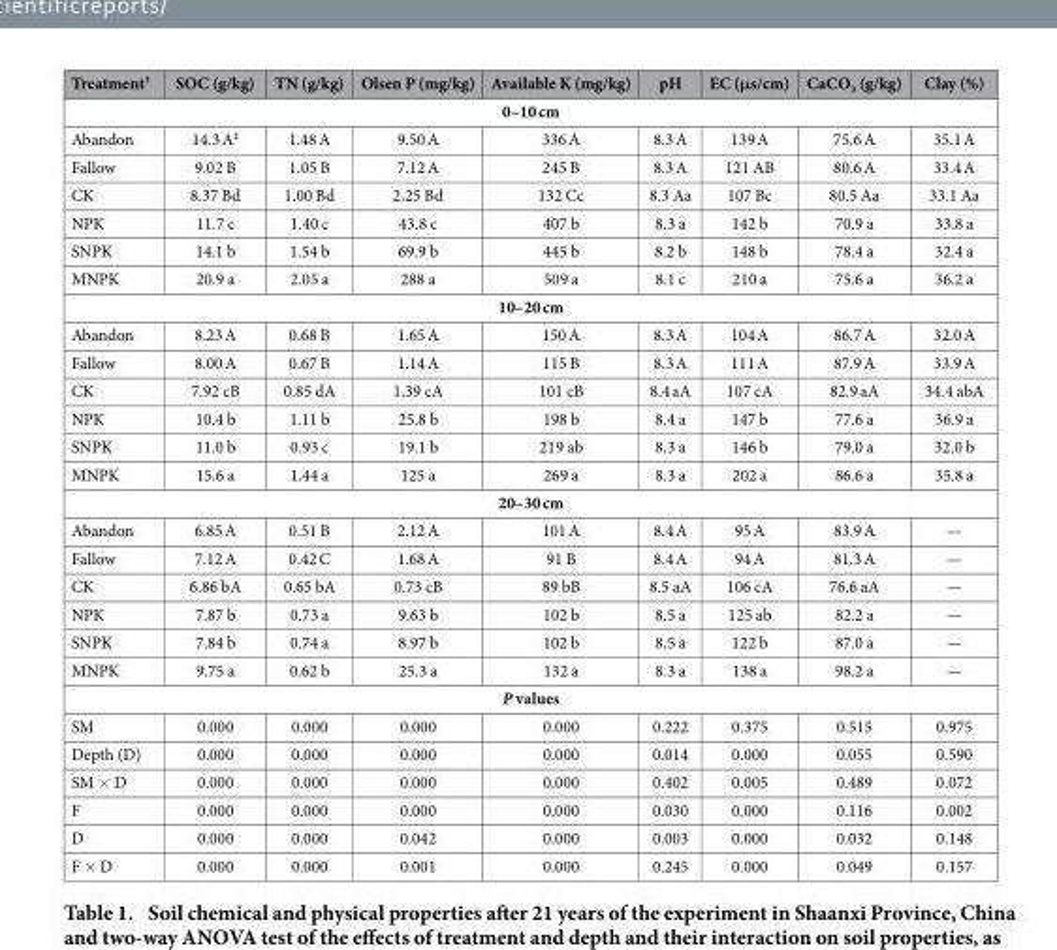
<table><thead><tr><td>Treatment†</td><td>SOC (g/kg)</td><td>TN (g/kg)</td><td>Olsen P (mg/kg)</td><td>Available K (mg/kg)</td><td>pH</td><td>EC (μs/cm)</td><td>CaCO<sub>3</sub> (g/kg)</td><td>Clay (%)</td></tr></thead><tbody><tr><td colspan="9">0–10 cm</td></tr><tr><td>Abandon</td><td>14.3 A‡</td><td>1.48 A</td><td>9.50 A</td><td>336 A</td><td>8.3 A</td><td>139 A</td><td>75.6 A</td><td>35.1 A</td></tr><tr><td>Fallow</td><td>9.02 B</td><td>1.05 B</td><td>7.12 A</td><td>245 B</td><td>8.3 A</td><td>121 AB</td><td>80.6 A</td><td>33.4 A</td></tr><tr><td>CK</td><td>8.37 Bd</td><td>1.00 Bd</td><td>2.25 Bd</td><td>132 Cc</td><td>8.3 Aa</td><td>107 Bc</td><td>80.5 Aa</td><td>33.1 Aa</td></tr><tr><td>NPK</td><td>11.7 c</td><td>1.40 c</td><td>43.8 c</td><td>407 b</td><td>8.3 a</td><td>142 b</td><td>70.9 a</td><td>33.8 a</td></tr><tr><td>SNPK</td><td>14.1 b</td><td>1.54 b</td><td>69.9 b</td><td>445 b</td><td>8.2 b</td><td>148 b</td><td>78.4 a</td><td>32.4 a</td></tr><tr><td>MNPK</td><td>20.9 a</td><td>2.05 a</td><td>288 a</td><td>509 a</td><td>8.1 c</td><td>210 a</td><td>75.6 a</td><td>36.2 a</td></tr><tr><td colspan="9">10–20 cm</td></tr><tr><td>Abandon</td><td>8.23 A</td><td>0.68 B</td><td>1.65 A</td><td>150 A</td><td>8.3 A</td><td>104 A</td><td>86.7 A</td><td>32.0 A</td></tr><tr><td>Fallow</td><td>8.00 A</td><td>0.67 B</td><td>1.14 A</td><td>115 B</td><td>8.3 A</td><td>111 A</td><td>87.9 A</td><td>33.9 A</td></tr><tr><td>CK</td><td>7.92 cB</td><td>0.85 dA</td><td>1.39 cA</td><td>101 cB</td><td>8.4 aA</td><td>107 cA</td><td>82.9 aA</td><td>34.4 abA</td></tr><tr><td>NPK</td><td>10.4 b</td><td>1.11 b</td><td>25.8 b</td><td>198 b</td><td>8.4 a</td><td>147 b</td><td>77.6 a</td><td>36.9 a</td></tr><tr><td>SNPK</td><td>11.0 b</td><td>0.93 c</td><td>19.1 b</td><td>219 ab</td><td>8.3 a</td><td>146 b</td><td>79.0 a</td><td>32.0 b</td></tr><tr><td>MNPK</td><td>15.6 a</td><td>1.44 a</td><td>125 a</td><td>269 a</td><td>8.3 a</td><td>202 a</td><td>86.6 a</td><td>35.8 a</td></tr><tr><td colspan="9">20–30 cm</td></tr><tr><td>Abandon</td><td>6.85 A</td><td>0.51 B</td><td>2.12 A</td><td>101 A</td><td>8.4 A</td><td>95 A</td><td>83.9 A</td><td>—</td></tr><tr><td>Fallow</td><td>7.12 A</td><td>0.42 C</td><td>1.68 A</td><td>91 B</td><td>8.4 A</td><td>94 A</td><td>81.3 A</td><td>—</td></tr><tr><td>CK</td><td>6.86 bA</td><td>0.65 bA</td><td>0.73 cB</td><td>89 bB</td><td>8.5 aA</td><td>106 cA</td><td>76.6 aA</td><td>—</td></tr><tr><td>NPK</td><td>7.87 b</td><td>0.73 a</td><td>9.63 b</td><td>102 b</td><td>8.5 a</td><td>125 ab</td><td>82.2 a</td><td>—</td></tr><tr><td>SNPK</td><td>7.84 b</td><td>0.74 a</td><td>8.97 b</td><td>102 b</td><td>8.5 a</td><td>122 b</td><td>87.0 a</td><td>—</td></tr><tr><td>MNPK</td><td>9.75 a</td><td>0.62 b</td><td>25.3 a</td><td>132 a</td><td>8.3 a</td><td>138 a</td><td>98.2 a</td><td>—</td></tr><tr><td colspan="9">P values</td></tr><tr><td>SM</td><td>0.000</td><td>0.000</td><td>0.000</td><td>0.000</td><td>0.222</td><td>0.375</td><td>0.515</td><td>0.975</td></tr><tr><td>Depth (D)</td><td>0.000</td><td>0.000</td><td>0.000</td><td>0.000</td><td>0.014</td><td>0.000</td><td>0.055</td><td>0.590</td></tr><tr><td>SM × D</td><td>0.000</td><td>0.000</td><td>0.000</td><td>0.000</td><td>0.402</td><td>0.005</td><td>0.489</td><td>0.072</td></tr><tr><td>F</td><td>0.000</td><td>0.000</td><td>0.000</td><td>0.000</td><td>0.030</td><td>0.000</td><td>0.116</td><td>0.002</td></tr><tr><td>D</td><td>0.000</td><td>0.000</td><td>0.042</td><td>0.000</td><td>0.003</td><td>0.000</td><td>0.032</td><td>0.148</td></tr><tr><td>F × D</td><td>0.000</td><td>0.000</td><td>0.001</td><td>0.000</td><td>0.245</td><td>0.000</td><td>0.049</td><td>0.157</td></tr></tbody></table>